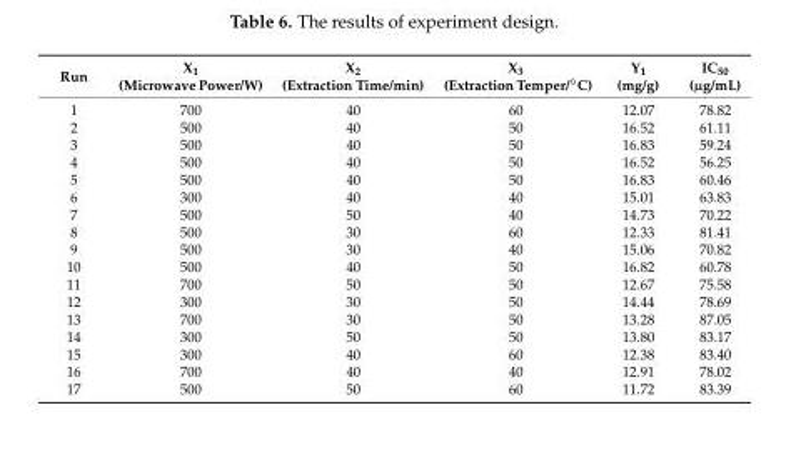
<table><thead><tr><td>Run</td><td>X<sub>1</sub> (Microwave Power/W)</td><td>X<sub>2</sub> (Extraction Time/min)</td><td>X3 (Extraction Temper/◦C)</td><td>Y<sub>1</sub> (mg/g)</td><td>IC<sub>50</sub> (µg/mL)</td></tr></thead><tbody><tr><td>1</td><td>700</td><td>40</td><td>60</td><td>12.07</td><td>78.82</td></tr><tr><td>2</td><td>500</td><td>40</td><td>50</td><td>16.52</td><td>61.11</td></tr><tr><td>3</td><td>500</td><td>40</td><td>50</td><td>16.83</td><td>59.24</td></tr><tr><td>4</td><td>500</td><td>40</td><td>50</td><td>16.52</td><td>56.25</td></tr><tr><td>5</td><td>500</td><td>40</td><td>50</td><td>16.83</td><td>60.46</td></tr><tr><td>6</td><td>300</td><td>40</td><td>40</td><td>15.01</td><td>63.83</td></tr><tr><td>7</td><td>500</td><td>50</td><td>40</td><td>14.73</td><td>70.22</td></tr><tr><td>8</td><td>500</td><td>30</td><td>60</td><td>12.33</td><td>81.41</td></tr><tr><td>9</td><td>500</td><td>30</td><td>40</td><td>15.06</td><td>70.82</td></tr><tr><td>10</td><td>500</td><td>40</td><td>50</td><td>16.82</td><td>60.78</td></tr><tr><td>11</td><td>700</td><td>50</td><td>50</td><td>12.67</td><td>75.58</td></tr><tr><td>12</td><td>300</td><td>30</td><td>50</td><td>14.44</td><td>78.69</td></tr><tr><td>13</td><td>700</td><td>30</td><td>50</td><td>13.28</td><td>87.05</td></tr><tr><td>14</td><td>300</td><td>50</td><td>50</td><td>13.80</td><td>83.17</td></tr><tr><td>15</td><td>300</td><td>40</td><td>60</td><td>12.38</td><td>83.40</td></tr><tr><td>16</td><td>700</td><td>40</td><td>40</td><td>12.91</td><td>78.02</td></tr><tr><td>17</td><td>500</td><td>50</td><td>60</td><td>11.72</td><td>83.39</td></tr></tbody></table>